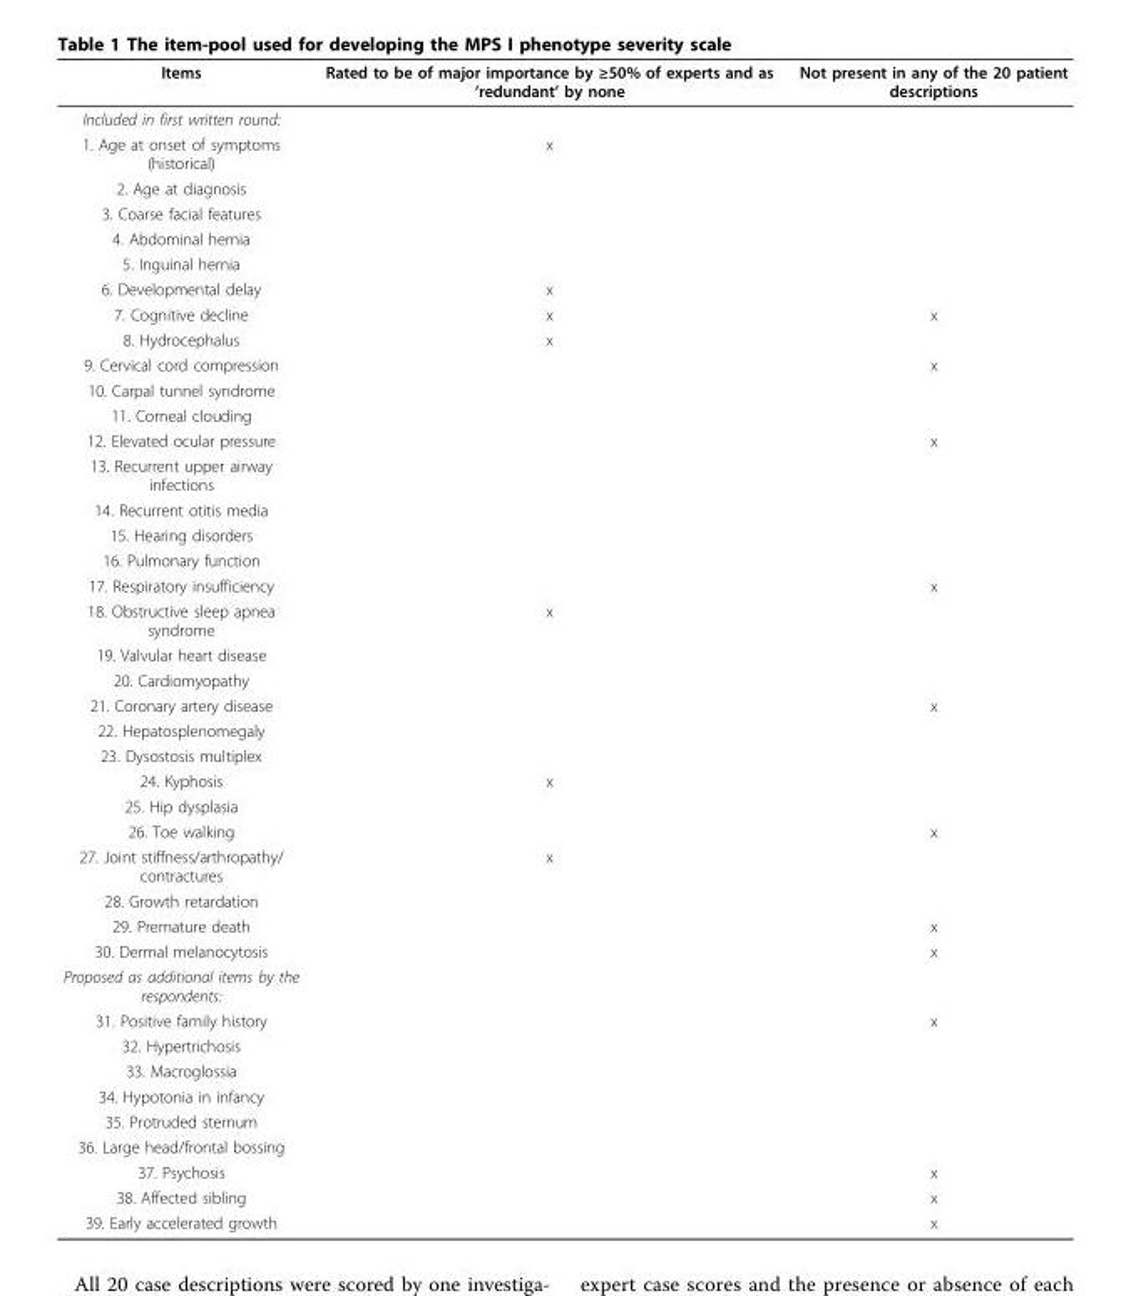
<table><thead><tr><td>Items</td><td>Rated to be of major importance by ≥50% of experts and as ‘redundant’ by none</td><td>Not present in any of the 20 patient descriptions</td></tr></thead><tbody><tr><td colspan="3">Included in first written round:</td></tr><tr><td>1. Age at onset of symptoms (historical)</td><td>x</td><td></td></tr><tr><td colspan="3">2. Age at diagnosis</td></tr><tr><td colspan="3">3. Coarse facial features</td></tr><tr><td colspan="3">4. Abdominal hernia</td></tr><tr><td colspan="3">5. Inguinal hernia</td></tr><tr><td>6. Developmental delay</td><td>x</td><td></td></tr><tr><td>7. Cognitive decline</td><td>x</td><td>x</td></tr><tr><td>8. Hydrocephalus</td><td>x</td><td></td></tr><tr><td>9. Cervical cord compression</td><td></td><td>x</td></tr><tr><td colspan="3">10. Carpal tunnel syndrome</td></tr><tr><td colspan="3">11. Corneal clouding</td></tr><tr><td>12. Elevated ocular pressure</td><td></td><td>x</td></tr><tr><td colspan="3">13. Recurrent upper airway infections</td></tr><tr><td colspan="3">14. Recurrent otitis media</td></tr><tr><td colspan="3">15. Hearing disorders</td></tr><tr><td colspan="3">16. Pulmonary function</td></tr><tr><td>17. Respiratory insufficiency</td><td></td><td>x</td></tr><tr><td>18. Obstructive sleep apnea syndrome</td><td>x</td><td></td></tr><tr><td colspan="3">19. Valvular heart disease</td></tr><tr><td colspan="3">20. Cardiomyopathy</td></tr><tr><td>21. Coronary artery disease</td><td></td><td>x</td></tr><tr><td colspan="3">22. Hepatosplenomegaly</td></tr><tr><td colspan="3">23. Dysostosis multiplex</td></tr><tr><td>24. Kyphosis</td><td>x</td><td></td></tr><tr><td colspan="3">25. Hip dysplasia</td></tr><tr><td>26. Toe walking</td><td></td><td>x</td></tr><tr><td>27. Joint stiffness/arthropathy/ contractures</td><td>x</td><td></td></tr><tr><td colspan="3">28. Growth retardation</td></tr><tr><td>29. Premature death</td><td></td><td>x</td></tr><tr><td>30. Dermal melanocytosis</td><td></td><td>x</td></tr><tr><td colspan="3">Proposed as additional items by the respondents:</td></tr><tr><td>31. Positive family history</td><td></td><td>x</td></tr><tr><td colspan="3">32. Hypertrichosis</td></tr><tr><td colspan="3">33. Macroglossia</td></tr><tr><td colspan="3">34. Hypotonia in infancy</td></tr><tr><td colspan="3">35. Protruded sternum</td></tr><tr><td colspan="3">36. Large head/frontal bossing</td></tr><tr><td>37. Psychosis</td><td></td><td>x</td></tr><tr><td>38. Affected sibling</td><td></td><td>x</td></tr><tr><td>39. Early accelerated growth</td><td></td><td>x</td></tr></tbody></table>